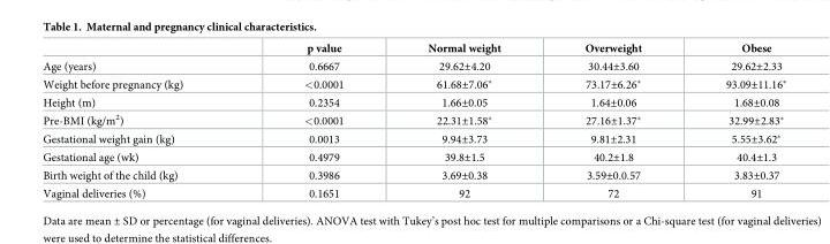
<table><thead><tr><td></td><td>p value</td><td>Normal weight</td><td>Overweight</td><td>Obese</td></tr></thead><tbody><tr><td>Age (years)</td><td>0.6667</td><td>29.62±4.20</td><td>30.44±3.60</td><td>29.62±2.33</td></tr><tr><td>Weight before pregnancy (kg)</td><td>&lt;0.0001</td><td>61.68±7.06*</td><td>73.17±6.26*</td><td>93.09±11.16*</td></tr><tr><td>Height (m)</td><td>0.2354</td><td>1.66±0.05</td><td>1.64±0.06</td><td>1.68±0.08</td></tr><tr><td>Pre-BMI (kg/m<sup>2</sup>)</td><td>&lt;0.0001</td><td>22.31±1.58*</td><td>27.16±1.37*</td><td>32.99±2.83*</td></tr><tr><td>Gestational weight gain (kg)</td><td>0.0013</td><td>9.94±3.73</td><td>9.81±2.31</td><td>5.55±3.62*</td></tr><tr><td>Gestational age (wk)</td><td>0.4979</td><td>39.8±1.5</td><td>40.2±1.8</td><td>40.4±1.3</td></tr><tr><td>Birth weight of the child (kg)</td><td>0.3986</td><td>3.69±0.38</td><td>3.59±0.0.57</td><td>3.83±0.37</td></tr><tr><td>Vaginal deliveries (%)</td><td>0.1651</td><td>92</td><td>72</td><td>91</td></tr></tbody></table>